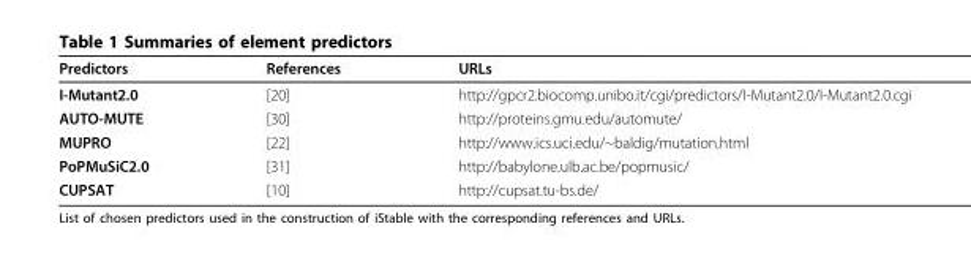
<table><thead><tr><td>Predictors</td><td>References</td><td>URLs</td></tr></thead><tbody><tr><td>I-Mutant2.0</td><td>[20]</td><td>http://gpcr2.biocomp.unibo.it/cgi/predictors/I-Mutant2.0/I-Mutant2.0.cgi</td></tr><tr><td>AUTO-MUTE</td><td>[30]</td><td>http://proteins.gmu.edu/automute/</td></tr><tr><td>MUPRO</td><td>[22]</td><td>http://www.ics.uci.edu/~baldig/mutation.html</td></tr><tr><td>PoPMuSiC2.0</td><td>[31]</td><td>http://babylone.ulb.ac.be/popmusic/</td></tr><tr><td>CUPSAT</td><td>[10]</td><td>http://cupsat.tu-bs.de/</td></tr></tbody></table>